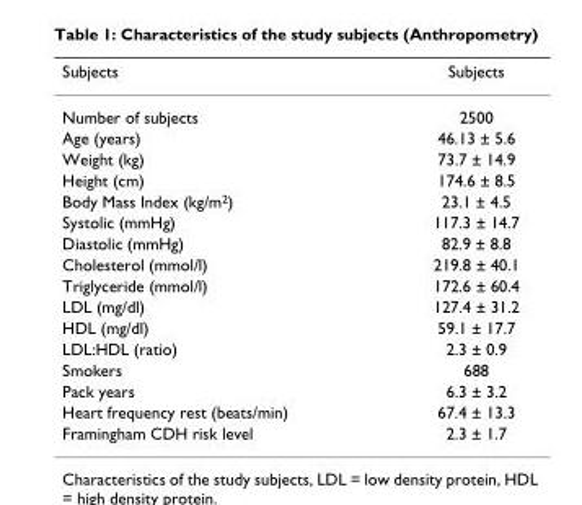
<table><thead><tr><td>Subjects</td><td>Subjects</td></tr></thead><tbody><tr><td>Number of subjects</td><td>2500</td></tr><tr><td>Age (years)</td><td>46.13 ± 5.6</td></tr><tr><td>Weight (kg)</td><td>73.7 ± 14.9</td></tr><tr><td>Height (cm)</td><td>174.6 ± 8.5</td></tr><tr><td>Body Mass Index (kg/m<sup>2</sup>)</td><td>23.1 ± 4.5</td></tr><tr><td>Systolic (mmHg)</td><td>117.3 ± 14.7</td></tr><tr><td>Diastolic (mmHg)</td><td>82.9 ± 8.8</td></tr><tr><td>Cholesterol (mmol/l)</td><td>219.8 ± 40.1</td></tr><tr><td>Triglyceride (mmol/l)</td><td>172.6 ± 60.4</td></tr><tr><td>LDL (mg/dl)</td><td>127.4 ± 31.2</td></tr><tr><td>HDL (mg/dl)</td><td>59.1 ± 17.7</td></tr><tr><td>LDL:HDL (ratio)</td><td>2.3 ± 0.9</td></tr><tr><td>Smokers</td><td>688</td></tr><tr><td>Pack years</td><td>6.3 ± 3.2</td></tr><tr><td>Heart frequency rest (beats/min)</td><td>67.4 ± 13.3</td></tr><tr><td>Framingham CDH risk level</td><td>2.3 ± 1.7</td></tr></tbody></table>